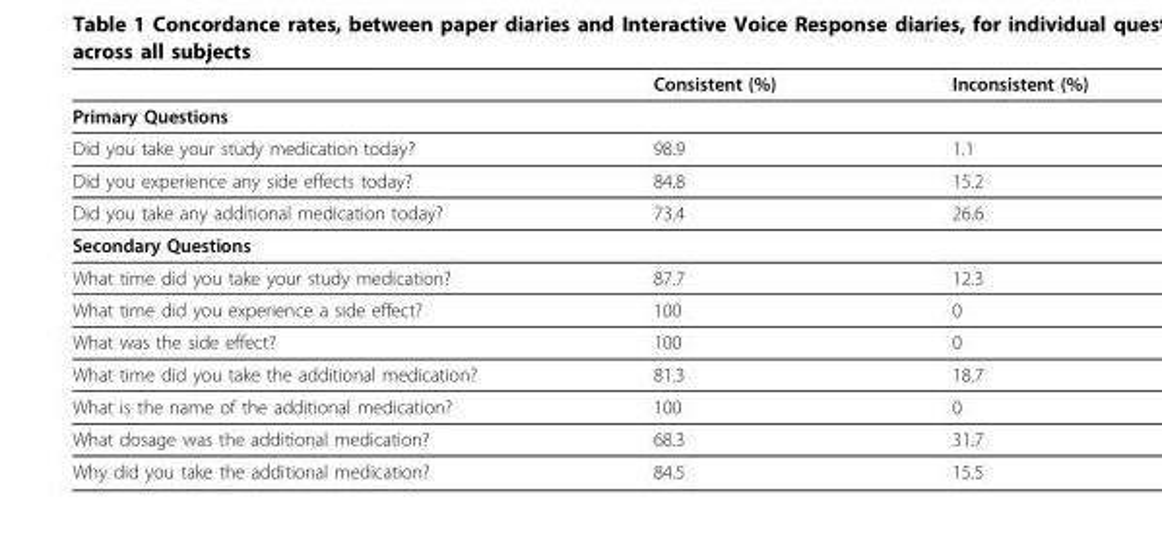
<table><thead><tr><td></td><td>Consistent (%)</td><td>Inconsistent (%)</td></tr></thead><tbody><tr><td colspan="3">Primary Questions</td></tr><tr><td>Did you take your study medication today?</td><td>98.9</td><td>1.1</td></tr><tr><td>Did you experience any side effects today?</td><td>84.8</td><td>15.2</td></tr><tr><td>Did you take any additional medication today?</td><td>73.4</td><td>26.6</td></tr><tr><td colspan="3">Secondary Questions</td></tr><tr><td>What time did you take your study medication?</td><td>87.7</td><td>12.3</td></tr><tr><td>What time did you experience a side effect?</td><td>100</td><td>0</td></tr><tr><td>What was the side effect?</td><td>100</td><td>0</td></tr><tr><td>What time did you take the additional medication?</td><td>81.3</td><td>18.7</td></tr><tr><td>What is the name of the additional medication?</td><td>100</td><td>0</td></tr><tr><td>What dosage was the additional medication?</td><td>68.3</td><td>31.7</td></tr><tr><td>Why did you take the additional medication?</td><td>84.5</td><td>15.5</td></tr></tbody></table>